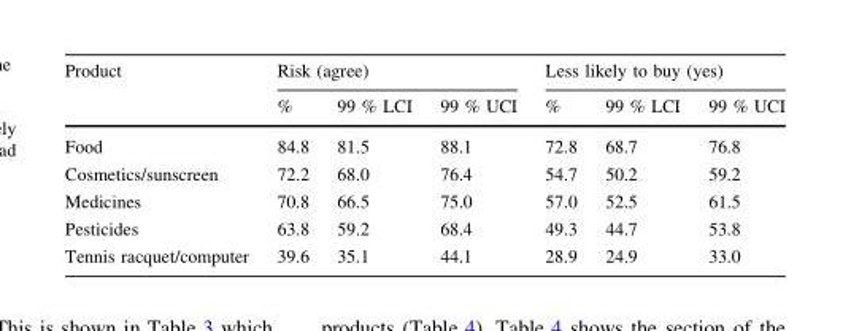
<table><thead><tr><td rowspan="2">Product</td><td colspan="3">Risk (agree)</td><td colspan="3">Less likely to buy (yes)</td></tr><tr><td>%</td><td>99 % LCI</td><td>99 % UCI</td><td>%</td><td>99 % LCI</td><td>99 % UCI</td></tr></thead><tbody><tr><td>Food</td><td>84.8</td><td>81.5</td><td>88.1</td><td>72.8</td><td>68.7</td><td>76.8</td></tr><tr><td>Cosmetics/sunscreen</td><td>72.2</td><td>68.0</td><td>76.4</td><td>54.7</td><td>50.2</td><td>59.2</td></tr><tr><td>Medicines</td><td>70.8</td><td>66.5</td><td>75.0</td><td>57.0</td><td>52.5</td><td>61.5</td></tr><tr><td>Pesticides</td><td>63.8</td><td>59.2</td><td>68.4</td><td>49.3</td><td>44.7</td><td>53.8</td></tr><tr><td>Tennis racquet/computer</td><td>39.6</td><td>35.1</td><td>44.1</td><td>28.9</td><td>24.9</td><td>33.0</td></tr></tbody></table>